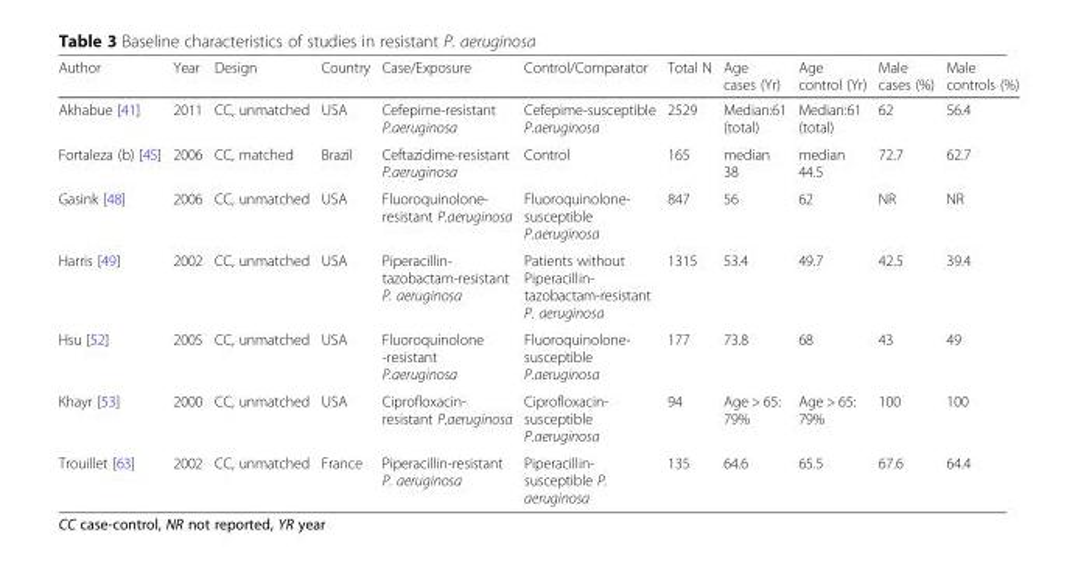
<table><thead><tr><td>Author</td><td>Year</td><td>Design</td><td>Country</td><td>Case/Exposure</td><td>Control/Comparator</td><td>Total N</td><td>Age cases (Yr)</td><td>Age control (Yr)</td><td>Male cases (%)</td><td>Male controls (%)</td></tr></thead><tbody><tr><td>Akhabue [41]</td><td>2011</td><td>CC, unmatched</td><td>USA</td><td>Cefepime-resistant P.aeruginosa</td><td>Cefepime-susceptible P.aeruginosa</td><td>2529</td><td>Median:61 (total)</td><td>Median:61 (total)</td><td>62</td><td>56.4</td></tr><tr><td>Fortaleza (b) [45]</td><td>2006</td><td>CC, matched</td><td>Brazil</td><td>Ceftazidime-resistant P.aeruginosa</td><td>Control</td><td>165</td><td>median 38</td><td>median 44.5</td><td>72.7</td><td>62.7</td></tr><tr><td>Gasink [48]</td><td>2006</td><td>CC, unmatched</td><td>USA</td><td>Fluoroquinolone- resistant P.aeruginosa</td><td>Fluoroquinolone- susceptible P.aeruginosa</td><td>847</td><td>56</td><td>62</td><td>NR</td><td>NR</td></tr><tr><td>Harris [49]</td><td>2002</td><td>CC, unmatched</td><td>USA</td><td>Piperacillin- tazobactam-resistant P. aeruginosa</td><td>Patients without Piperacillin- tazobactam-resistant P. aeruginosa</td><td>1315</td><td>53.4</td><td>49.7</td><td>42.5</td><td>39.4</td></tr><tr><td>Hsu [52]</td><td>2005</td><td>CC, unmatched</td><td>USA</td><td>Fluoroquinolone -resistant P.aeruginosa</td><td>Fluoroquinolone- susceptible P.aeruginosa</td><td>177</td><td>73.8</td><td>68</td><td>43</td><td>49</td></tr><tr><td>Khayr [53]</td><td>2000</td><td>CC, unmatched</td><td>USA</td><td>Ciprofloxacin- resistant P.aeruginosa</td><td>Ciprofloxacin- susceptible P.aeruginosa</td><td>94</td><td>Age &gt; 65: 79%</td><td>Age &gt; 65: 79%</td><td>100</td><td>100</td></tr><tr><td>Trouillet [63]</td><td>2002</td><td>CC, unmatched</td><td>France</td><td>Piperacillin-resistant P. aeruginosa</td><td>Piperacillin- susceptible P. aeruginosa</td><td>135</td><td>64.6</td><td>65.5</td><td>67.6</td><td>64.4</td></tr></tbody></table>